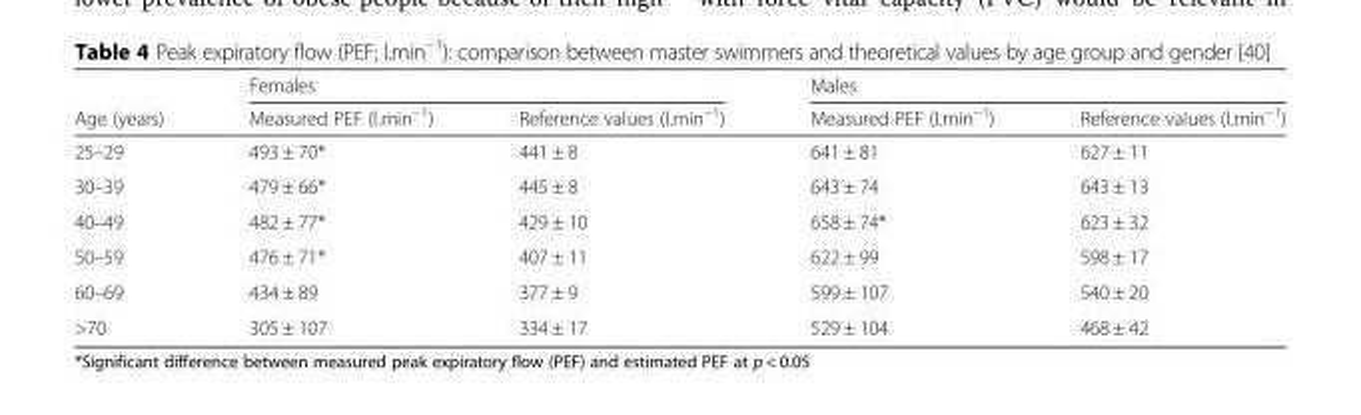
<table><thead><tr><td rowspan="2">Age (years)</td><td colspan="2">Females</td><td colspan="2">Males</td></tr><tr><td>Measured PEF (l.min<sup>−1</sup>)</td><td>Reference values (l.min<sup>−1</sup>)</td><td>Measured PEF (l.min<sup>−1</sup>)</td><td>Reference values (l.min<sup>−1</sup>)</td></tr></thead><tbody><tr><td>25–29</td><td>493 ± 70*</td><td>441 ± 8</td><td>641 ± 81</td><td>627 ± 11</td></tr><tr><td>30–39</td><td>479 ± 66*</td><td>445 ± 8</td><td>643 ± 74</td><td>643 ± 13</td></tr><tr><td>40–49</td><td>482 ± 77*</td><td>429 ± 10</td><td>658 ± 74*</td><td>623 ± 32</td></tr><tr><td>50–59</td><td>476 ± 71*</td><td>407 ± 11</td><td>622 ± 99</td><td>598 ± 17</td></tr><tr><td>60–69</td><td>434 ± 89</td><td>377 ± 9</td><td>599 ± 107</td><td>540 ± 20</td></tr><tr><td>&gt;70</td><td>305 ± 107</td><td>334 ± 17</td><td>529 ± 104</td><td>468 ± 42</td></tr></tbody></table>